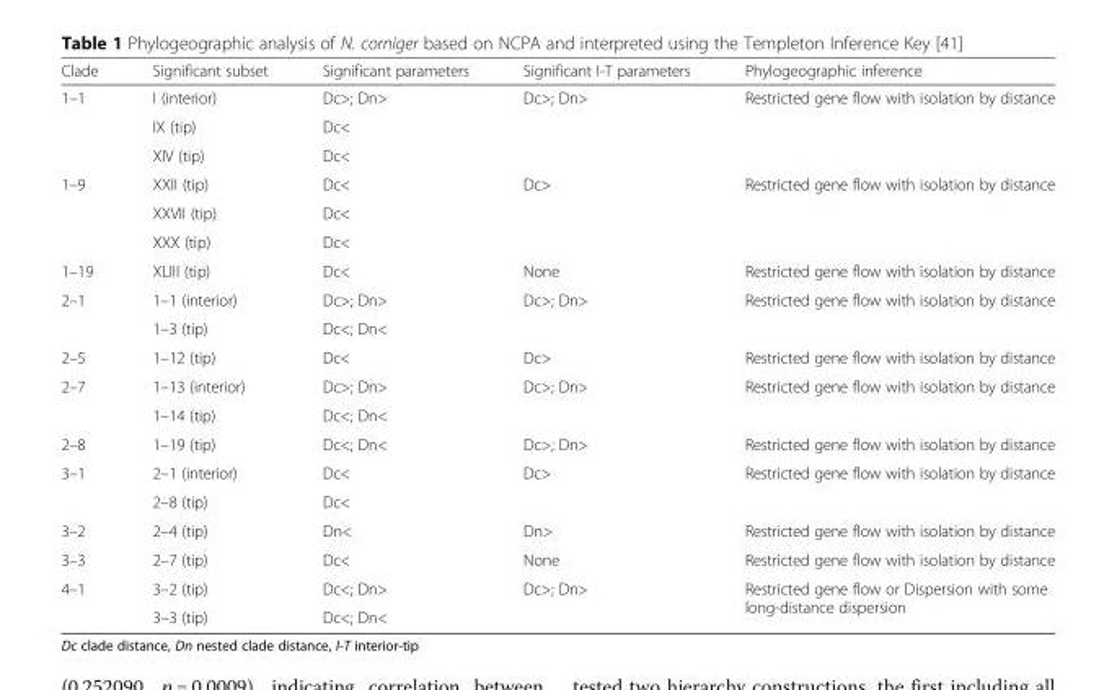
<table><thead><tr><td>Clade</td><td>Significant subset</td><td>Significant parameters</td><td>Significant I-T parameters</td><td>Phylogeographic inference</td></tr></thead><tbody><tr><td rowspan="3">1–1</td><td>I (interior)</td><td>Dc&gt;; Dn&gt;</td><td rowspan="3">Dc&gt;; Dn&gt;</td><td rowspan="3">Restricted gene flow with isolation by distance</td></tr><tr><td>IX (tip)</td><td>Dc&lt;</td></tr><tr><td>XIV (tip)</td><td>Dc&lt;</td></tr><tr><td rowspan="3">1–9</td><td>XXII (tip)</td><td>Dc&lt;</td><td rowspan="3">Dc&gt;</td><td rowspan="3">Restricted gene flow with isolation by distance</td></tr><tr><td>XXVII (tip)</td><td>Dc&lt;</td></tr><tr><td>XXX (tip)</td><td>Dc&lt;</td></tr><tr><td>1–19</td><td>XLIII (tip)</td><td>Dc&lt;</td><td>None</td><td>Restricted gene flow with isolation by distance</td></tr><tr><td rowspan="2">2–1</td><td>1–1 (interior)</td><td>Dc&gt;; Dn&gt;</td><td rowspan="2">Dc&gt;; Dn&gt;</td><td rowspan="2">Restricted gene flow with isolation by distance</td></tr><tr><td>1–3 (tip)</td><td>Dc&lt;; Dn&lt;</td></tr><tr><td>2–5</td><td>1–12 (tip)</td><td>Dc&lt;</td><td>Dc&gt;</td><td>Restricted gene flow with isolation by distance</td></tr><tr><td rowspan="2">2–7</td><td>1–13 (interior)</td><td>Dc&gt;; Dn&gt;</td><td rowspan="2">Dc&gt;; Dn&gt;</td><td rowspan="2">Restricted gene flow with isolation by distance</td></tr><tr><td>1–14 (tip)</td><td>Dc&lt;; Dn&lt;</td></tr><tr><td>2–8</td><td>1–19 (tip)</td><td>Dc&lt;; Dn&lt;</td><td>Dc&gt;; Dn&gt;</td><td>Restricted gene flow with isolation by distance</td></tr><tr><td rowspan="2">3–1</td><td>2–1 (interior)</td><td>Dc&lt;</td><td rowspan="2">Dc&gt;</td><td rowspan="2">Restricted gene flow with isolation by distance</td></tr><tr><td>2–8 (tip)</td><td>Dc&lt;</td></tr><tr><td>3–2</td><td>2–4 (tip)</td><td>Dn&lt;</td><td>Dn&gt;</td><td>Restricted gene flow with isolation by distance</td></tr><tr><td>3–3</td><td>2–7 (tip)</td><td>Dc&lt;</td><td>None</td><td>Restricted gene flow with isolation by distance</td></tr><tr><td rowspan="2">4–1</td><td>3–2 (tip)</td><td>Dc&lt;; Dn&gt;</td><td rowspan="2">Dc&gt;; Dn&gt;</td><td rowspan="2">Restricted gene flow or Dispersion with some long-distance dispersion</td></tr><tr><td>3–3 (tip)</td><td>Dc&lt;; Dn&lt;</td></tr></tbody></table>